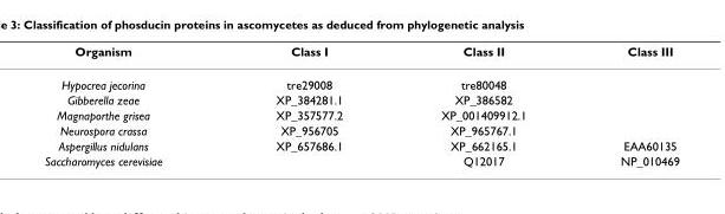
<table><thead><tr><td>Organism</td><td>Class I</td><td>Class II</td><td>Class III</td></tr></thead><tbody><tr><td>Hypocrea jecorina</td><td>tre29008</td><td>tre80048</td><td></td></tr><tr><td>Gibberella zeae</td><td>XP_384281.1</td><td>XP_386582</td><td></td></tr><tr><td>Magnaporthe grisea</td><td>XP_357577.2</td><td>XP_001409912.1</td><td></td></tr><tr><td>Neurospora crassa</td><td>XP_956705</td><td>XP_965767.1</td><td></td></tr><tr><td>Aspergillus nidulans</td><td>XP_657686.1</td><td>XP_662165.1</td><td>EAA60135</td></tr><tr><td>Saccharomyces cerevisiae</td><td></td><td>Q12017</td><td>NP_010469</td></tr></tbody></table>